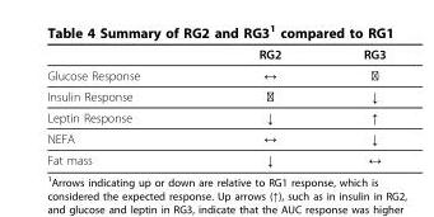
<table><thead><tr><td></td><td>RG2</td><td>RG3</td></tr></thead><tbody><tr><td>Glucose Response</td><td>↔</td><td>⇈</td></tr><tr><td>Insulin Response</td><td>⇈</td><td>↓</td></tr><tr><td>Leptin Response</td><td>↓</td><td>↑</td></tr><tr><td>NEFA</td><td>↔</td><td>↓</td></tr><tr><td>Fat mass</td><td>↓</td><td>↔</td></tr></tbody></table>